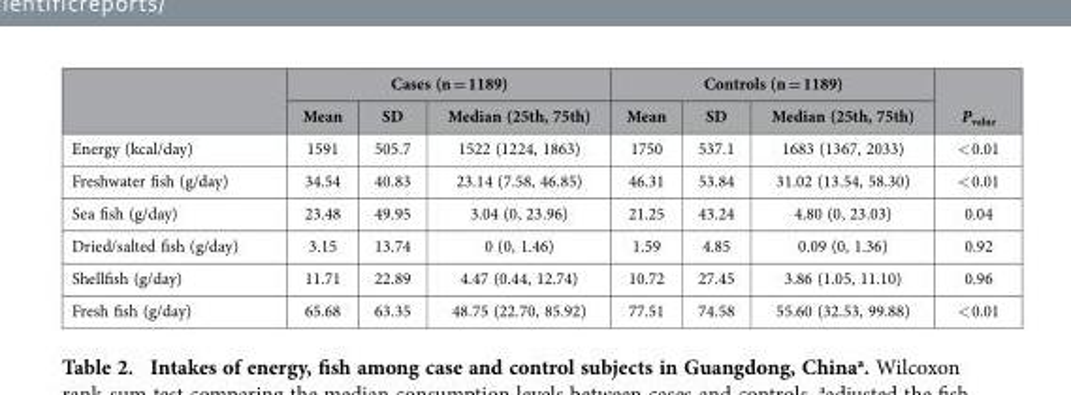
<table><thead><tr><td rowspan="2"></td><td colspan="3">Cases (n = 1189)</td><td colspan="3">Controls (n = 1189)</td><td rowspan="2">P<sub>value</sub></td></tr><tr><td>Mean</td><td>SD</td><td>Median (25th, 75th)</td><td>Mean</td><td>SD</td><td>Median (25th, 75th)</td></tr></thead><tbody><tr><td>Energy (kcal/day)</td><td>1591</td><td>505.7</td><td>1522 (1224, 1863)</td><td>1750</td><td>537.1</td><td>1683 (1367, 2033)</td><td>&lt; 0.01</td></tr><tr><td>Freshwater fish (g/day)</td><td>34.54</td><td>40.83</td><td>23.14 (7.58, 46.85)</td><td>46.31</td><td>53.84</td><td>31.02 (13.54, 58.30)</td><td>&lt; 0.01</td></tr><tr><td>Sea fish (g/day)</td><td>23.48</td><td>49.95</td><td>3.04 (0, 23.96)</td><td>21.25</td><td>43.24</td><td>4.80 (0, 23.03)</td><td>0.04</td></tr><tr><td>Dried/salted fish (g/day)</td><td>3.15</td><td>13.74</td><td>0 (0, 1.46)</td><td>1.59</td><td>4.85</td><td>0.09 (0, 1.36)</td><td>0.92</td></tr><tr><td>Shellfish (g/day)</td><td>11.71</td><td>22.89</td><td>4.47 (0.44, 12.74)</td><td>10.72</td><td>27.45</td><td>3.86 (1.05, 11.10)</td><td>0.96</td></tr><tr><td>Fresh fish (g/day)</td><td>65.68</td><td>63.35</td><td>48.75 (22.70, 85.92)</td><td>77.51</td><td>74.58</td><td>55.60 (32.53, 99.88)</td><td>&lt; 0.01</td></tr></tbody></table>